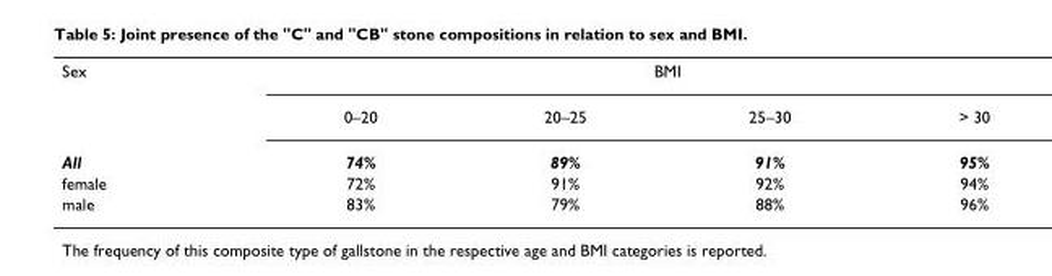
<table><tbody><tr><td rowspan="2">Sex</td><td colspan="4">BMI</td></tr><tr><td>0–20</td><td>20–25</td><td>25–30</td><td>&gt; 30</td></tr><tr><td>All</td><td>74%</td><td>89%</td><td>91%</td><td>95%</td></tr><tr><td>female</td><td>72%</td><td>91%</td><td>92%</td><td>94%</td></tr><tr><td>male</td><td>83%</td><td>79%</td><td>88%</td><td>96%</td></tr></tbody></table>